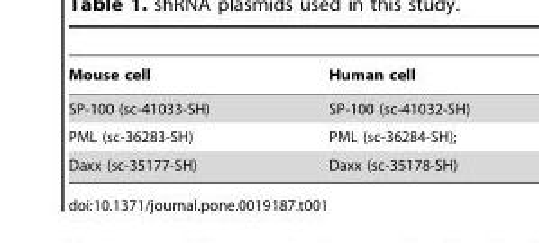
<table><thead><tr><td>Mouse cell</td><td>Human cell</td></tr></thead><tbody><tr><td>SP-100 (sc-41033-SH)</td><td>SP-100 (sc-41032-SH)</td></tr><tr><td>PML (sc-36283-SH)</td><td>PML (sc-36284-SH);</td></tr><tr><td>Daxx (sc-35177-SH)</td><td>Daxx (sc-35178-SH)</td></tr></tbody></table>